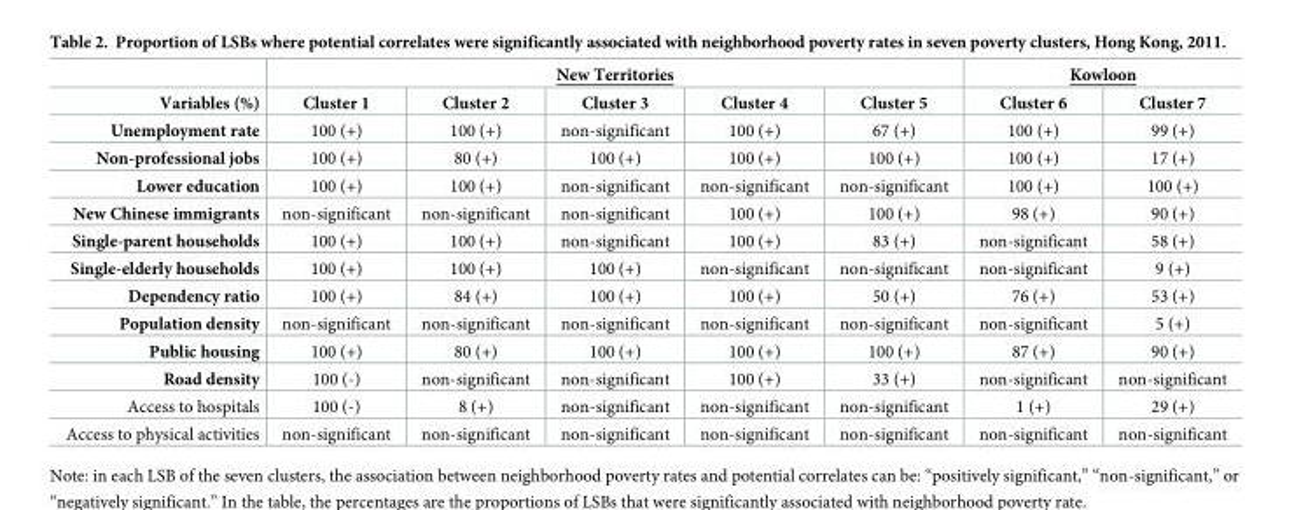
<table><thead><tr><td rowspan="2">Variables (%)</td><td colspan="5">New Territories</td><td colspan="2">Kowloon</td></tr><tr><td>Cluster 1</td><td>Cluster 2</td><td>Cluster 3</td><td>Cluster 4</td><td>Cluster 5</td><td>Cluster 6</td><td>Cluster 7</td></tr></thead><tbody><tr><td>Unemployment rate</td><td>100 (+)</td><td>100 (+)</td><td>non-significant</td><td>100 (+)</td><td>67 (+)</td><td>100 (+)</td><td>99 (+)</td></tr><tr><td>Non-professional jobs</td><td>100 (+)</td><td>80 (+)</td><td>100 (+)</td><td>100 (+)</td><td>100 (+)</td><td>100 (+)</td><td>17 (+)</td></tr><tr><td>Lower education</td><td>100 (+)</td><td>100 (+)</td><td>non-significant</td><td>non-significant</td><td>non-significant</td><td>100 (+)</td><td>100 (+)</td></tr><tr><td>New Chinese immigrants</td><td>non-significant</td><td>non-significant</td><td>non-significant</td><td>100 (+)</td><td>100 (+)</td><td>98 (+)</td><td>90 (+)</td></tr><tr><td>Single-parent households</td><td>100 (+)</td><td>100 (+)</td><td>non-significant</td><td>100 (+)</td><td>83 (+)</td><td>non-significant</td><td>58 (+)</td></tr><tr><td>Single-elderly households</td><td>100 (+)</td><td>100 (+)</td><td>100 (+)</td><td>non-significant</td><td>non-significant</td><td>non-significant</td><td>9 (+)</td></tr><tr><td>Dependency ratio</td><td>100 (+)</td><td>84 (+)</td><td>100 (+)</td><td>100 (+)</td><td>50 (+)</td><td>76 (+)</td><td>53 (+)</td></tr><tr><td>Population density</td><td>non-significant</td><td>non-significant</td><td>non-significant</td><td>non-significant</td><td>non-significant</td><td>non-significant</td><td>5 (+)</td></tr><tr><td>Public housing</td><td>100 (+)</td><td>80 (+)</td><td>100 (+)</td><td>100 (+)</td><td>100 (+)</td><td>87 (+)</td><td>90 (+)</td></tr><tr><td>Road density</td><td>100 (-)</td><td>non-significant</td><td>non-significant</td><td>100 (+)</td><td>33 (+)</td><td>non-significant</td><td>non-significant</td></tr><tr><td>Access to hospitals</td><td>100 (-)</td><td>8 (+)</td><td>non-significant</td><td>non-significant</td><td>non-significant</td><td>1 (+)</td><td>29 (+)</td></tr><tr><td>Access to physical activities</td><td>non-significant</td><td>non-significant</td><td>non-significant</td><td>non-significant</td><td>non-significant</td><td>non-significant</td><td>non-significant</td></tr></tbody></table>